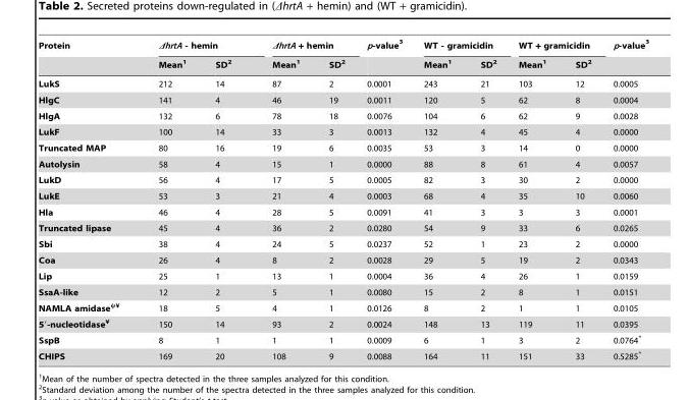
<table><thead><tr><td rowspan="2">Protein</td><td colspan="2">ΔhrtA - hemin</td><td colspan="2">ΔhrtA + hemin</td><td rowspan="2">p-value <sup>3</sup></td><td colspan="2">WT - gramicidin</td><td colspan="2">WT + gramicidin</td><td rowspan="2">p-value <sup>3</sup></td></tr><tr><td>Mean<sup>1</sup></td><td>SD<sup>2</sup></td><td>Mean<sup>1</sup></td><td>SD<sup>2</sup></td><td>Mean<sup>1</sup></td><td>SD<sup>2</sup></td><td>Mean<sup>1</sup></td><td>SD<sup>2</sup></td></tr></thead><tbody><tr><td>LukS</td><td>212</td><td>14</td><td>87</td><td>2</td><td>0.0001</td><td>243</td><td>21</td><td>103</td><td>12</td><td>0.0005</td></tr><tr><td>HlgC</td><td>141</td><td>4</td><td>46</td><td>19</td><td>0.0011</td><td>120</td><td>5</td><td>62</td><td>8</td><td>0.0004</td></tr><tr><td>HlgA</td><td>132</td><td>6</td><td>78</td><td>18</td><td>0.0076</td><td>104</td><td>6</td><td>62</td><td>9</td><td>0.0028</td></tr><tr><td>LukF</td><td>100</td><td>14</td><td>33</td><td>3</td><td>0.0013</td><td>132</td><td>4</td><td>45</td><td>4</td><td>0.0000</td></tr><tr><td>Truncated MAP</td><td>80</td><td>16</td><td>19</td><td>6</td><td>0.0035</td><td>53</td><td>3</td><td>14</td><td>0</td><td>0.0000</td></tr><tr><td>Autolysin</td><td>58</td><td>4</td><td>15</td><td>1</td><td>0.0000</td><td>88</td><td>8</td><td>61</td><td>4</td><td>0.0057</td></tr><tr><td>LukD</td><td>56</td><td>4</td><td>17</td><td>5</td><td>0.0005</td><td>82</td><td>3</td><td>30</td><td>2</td><td>0.0000</td></tr><tr><td>LukE</td><td>53</td><td>3</td><td>21</td><td>4</td><td>0.0003</td><td>68</td><td>4</td><td>35</td><td>10</td><td>0.0060</td></tr><tr><td>Hla</td><td>46</td><td>4</td><td>28</td><td>5</td><td>0.0091</td><td>41</td><td>3</td><td>3</td><td>3</td><td>0.0001</td></tr><tr><td>Truncated lipase</td><td>45</td><td>4</td><td>36</td><td>2</td><td>0.0280</td><td>54</td><td>9</td><td>33</td><td>6</td><td>0.0265</td></tr><tr><td>Sbi</td><td>38</td><td>4</td><td>24</td><td>5</td><td>0.0237</td><td>52</td><td>1</td><td>23</td><td>2</td><td>0.0000</td></tr><tr><td>Coa</td><td>26</td><td>4</td><td>8</td><td>2</td><td>0.0028</td><td>29</td><td>5</td><td>19</td><td>2</td><td>0.0343</td></tr><tr><td>Lip</td><td>25</td><td>1</td><td>13</td><td>1</td><td>0.0004</td><td>36</td><td>4</td><td>26</td><td>1</td><td>0.0159</td></tr><tr><td>SsaA-like</td><td>12</td><td>2</td><td>5</td><td>1</td><td>0.0080</td><td>15</td><td>2</td><td>8</td><td>1</td><td>0.0151</td></tr><tr><td>NAMLA amidase<sup>ψ¥</sup></td><td>18</td><td>5</td><td>4</td><td>1</td><td>0.0126</td><td>8</td><td>2</td><td>1</td><td>1</td><td>0.0105</td></tr><tr><td>5′-nucleotidase¥</td><td>150</td><td>14</td><td>93</td><td>2</td><td>0.0024</td><td>148</td><td>13</td><td>119</td><td>11</td><td>0.0395</td></tr><tr><td>SspB</td><td>8</td><td>1</td><td>1</td><td>1</td><td>0.0009</td><td>6</td><td>1</td><td>3</td><td>2</td><td>0.0764*</td></tr><tr><td>CHIPS</td><td>169</td><td>20</td><td>108</td><td>9</td><td>0.0088</td><td>164</td><td>11</td><td>151</td><td>33</td><td>0.5285*</td></tr></tbody></table>